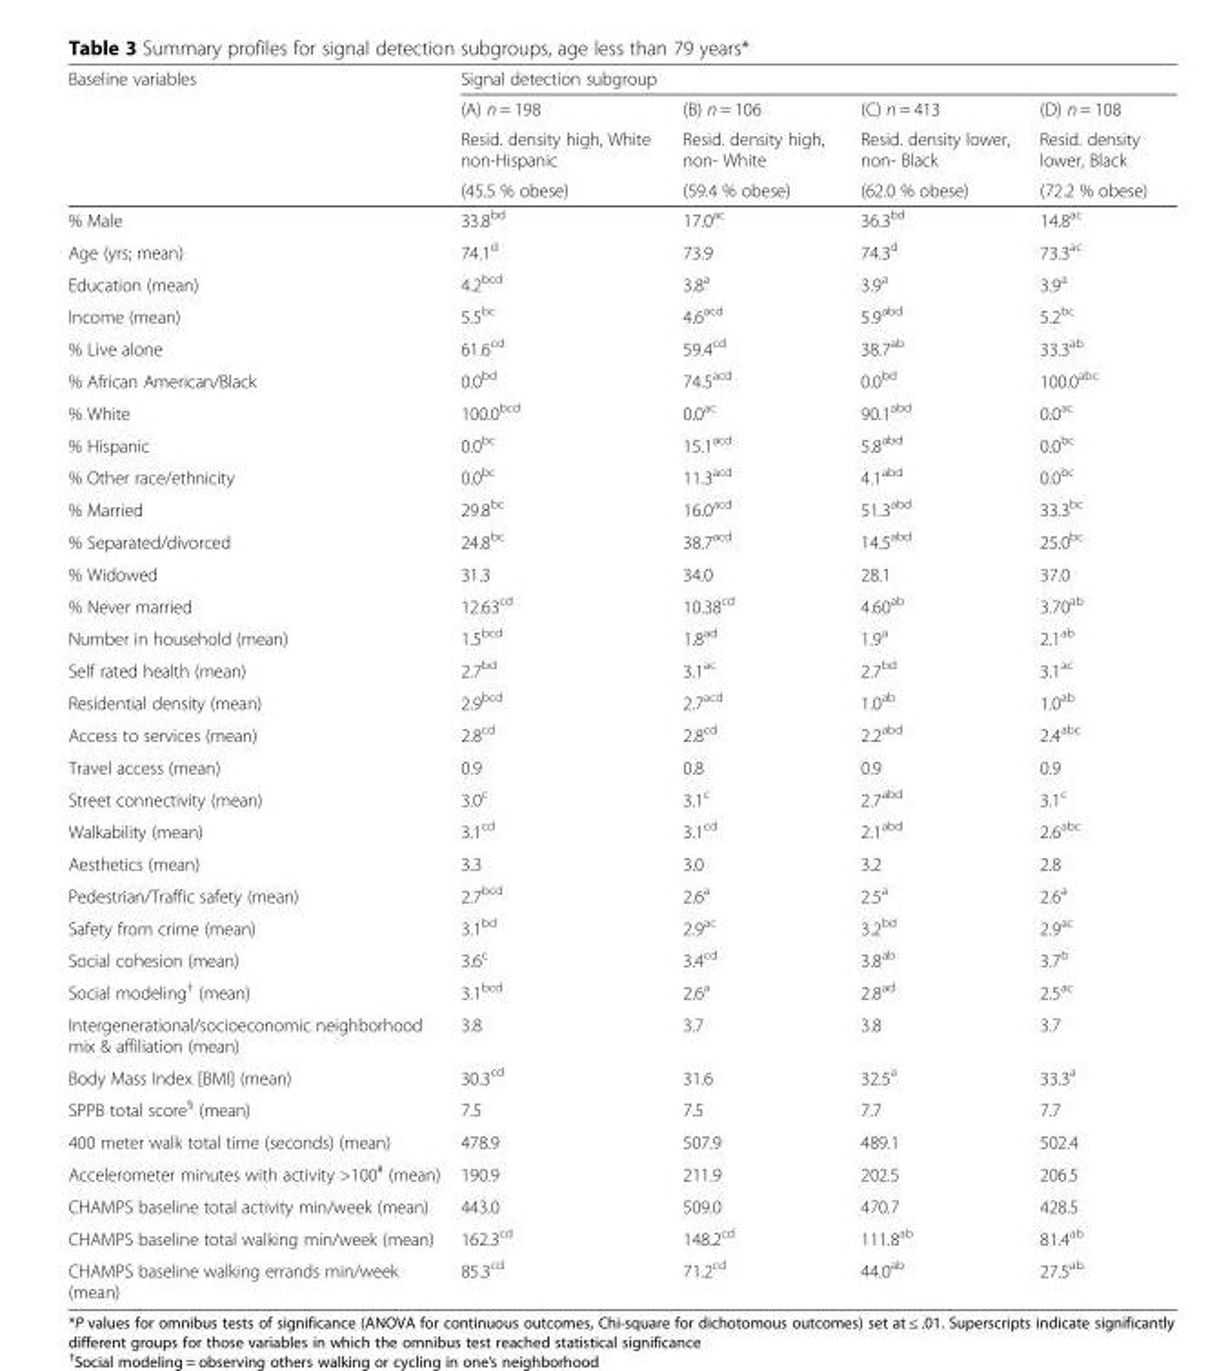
<table><thead><tr><td rowspan="4">Baseline variables</td><td colspan="4">Signal detection subgroup</td></tr><tr><td rowspan="3">(A) n = 198 Resid. density high, White non-Hispanic (45.5 % obese)</td><td rowspan="3">(B) n = 106 Resid. density high, non- White (59.4 % obese)</td><td rowspan="3">(C) n = 413 Resid. density lower, non- Black (62.0 % obese)</td><td rowspan="3">(D) n = 108 Resid. density lower, Black (72.2 % obese)</td></tr><tr></tr><tr></tr></thead><tbody><tr><td>% Male</td><td>33.8<sup>bd</sup></td><td>17.0<sup>ac</sup></td><td>36.3<sup>bd</sup></td><td>14.8<sup>ac</sup></td></tr><tr><td>Age (yrs; mean)</td><td>74.1<sup>d</sup></td><td>73.9</td><td>74.3<sup>d</sup></td><td>73.3<sup>ac</sup></td></tr><tr><td>Education (mean)</td><td>4.2<sup>bcd</sup></td><td>3.8<sup>a</sup></td><td>3.9<sup>a</sup></td><td>3.9<sup>a</sup></td></tr><tr><td>Income (mean)</td><td>5.5<sup>bc</sup></td><td>4.6<sup>acd</sup></td><td>5.9<sup>abd</sup></td><td>5.2<sup>bc</sup></td></tr><tr><td>% Live alone</td><td>61.6<sup>cd</sup></td><td>59.4<sup>cd</sup></td><td>38.7<sup>ab</sup></td><td>33.3<sup>ab</sup></td></tr><tr><td>% African American/Black</td><td>0.0<sup>bd</sup></td><td>74.5<sup>acd</sup></td><td>0.0<sup>bd</sup></td><td>100.0<sup>abc</sup></td></tr><tr><td>% White</td><td>100.0<sup>bcd</sup></td><td>0.0<sup>ac</sup></td><td>90.1<sup>abd</sup></td><td>0.0<sup>ac</sup></td></tr><tr><td>% Hispanic</td><td>0.0<sup>bc</sup></td><td>15.1<sup>acd</sup></td><td>5.8<sup>abd</sup></td><td>0.0<sup>bc</sup></td></tr><tr><td>% Other race/ethnicity</td><td>0.0<sup>bc</sup></td><td>11.3<sup>acd</sup></td><td>4.1<sup>abd</sup></td><td>0.0<sup>bc</sup></td></tr><tr><td>% Married</td><td>29.8<sup>bc</sup></td><td>16.0<sup>acd</sup></td><td>51.3<sup>abd</sup></td><td>33.3<sup>bc</sup></td></tr><tr><td>% Separated/divorced</td><td>24.8<sup>bc</sup></td><td>38.7<sup>acd</sup></td><td>14.5<sup>abd</sup></td><td>25.0<sup>bc</sup></td></tr><tr><td>% Widowed</td><td>31.3</td><td>34.0</td><td>28.1</td><td>37.0</td></tr><tr><td>% Never married</td><td>12.63<sup>cd</sup></td><td>10.38<sup>cd</sup></td><td>4.60<sup>ab</sup></td><td>3.70<sup>ab</sup></td></tr><tr><td>Number in household (mean)</td><td>1.5<sup>bcd</sup></td><td>1.8<sup>ad</sup></td><td>1.9<sup>a</sup></td><td>2.1<sup>ab</sup></td></tr><tr><td>Self rated health (mean)</td><td>2.7<sup>bd</sup></td><td>3.1<sup>ac</sup></td><td>2.7<sup>bd</sup></td><td>3.1<sup>ac</sup></td></tr><tr><td>Residential density (mean)</td><td>2.9<sup>bcd</sup></td><td>2.7<sup>acd</sup></td><td>1.0<sup>ab</sup></td><td>1.0<sup>ab</sup></td></tr><tr><td>Access to services (mean)</td><td>2.8<sup>cd</sup></td><td>2.8<sup>cd</sup></td><td>2.2<sup>abd</sup></td><td>2.4<sup>abc</sup></td></tr><tr><td>Travel access (mean)</td><td>0.9</td><td>0.8</td><td>0.9</td><td>0.9</td></tr><tr><td>Street connectivity (mean)</td><td>3.0<sup>c</sup></td><td>3.1<sup>c</sup></td><td>2.7<sup>abd</sup></td><td>3.1<sup>c</sup></td></tr><tr><td>Walkability (mean)</td><td>3.1<sup>cd</sup></td><td>3.1<sup>cd</sup></td><td>2.1<sup>abd</sup></td><td>2.6<sup>abc</sup></td></tr><tr><td>Aesthetics (mean)</td><td>3.3</td><td>3.0</td><td>3.2</td><td>2.8</td></tr><tr><td>Pedestrian/Traffic safety (mean)</td><td>2.7<sup>bcd</sup></td><td>2.6<sup>a</sup></td><td>2.5<sup>a</sup></td><td>2.6<sup>a</sup></td></tr><tr><td>Safety from crime (mean)</td><td>3.1<sup>bd</sup></td><td>2.9<sup>ac</sup></td><td>3.2<sup>bd</sup></td><td>2.9<sup>ac</sup></td></tr><tr><td>Social cohesion (mean)</td><td>3.6<sup>c</sup></td><td>3.4<sup>cd</sup></td><td>3.8<sup>ab</sup></td><td>3.7<sup>b</sup></td></tr><tr><td>Social modeling<sup>†</sup> (mean)</td><td>3.1<sup>bcd</sup></td><td>2.6<sup>a</sup></td><td>2.8<sup>ad</sup></td><td>2.5<sup>ac</sup></td></tr><tr><td>Intergenerational/socioeconomic neighborhood mix &amp; affiliation (mean)</td><td>3.8</td><td>3.7</td><td>3.8</td><td>3.7</td></tr><tr><td>Body Mass Index [BMI] (mean)</td><td>30.3<sup>cd</sup></td><td>31.6</td><td>32.5<sup>a</sup></td><td>33.3<sup>a</sup></td></tr><tr><td>SPPB total score<sup>§</sup> (mean)</td><td>7.5</td><td>7.5</td><td>7.7</td><td>7.7</td></tr><tr><td>400 meter walk total time (seconds) (mean)</td><td>478.9</td><td>507.9</td><td>489.1</td><td>502.4</td></tr><tr><td>Accelerometer minutes with activity &gt;100<sup>#</sup> (mean)</td><td>190.9</td><td>211.9</td><td>202.5</td><td>206.5</td></tr><tr><td>CHAMPS baseline total activity min/week (mean)</td><td>443.0</td><td>509.0</td><td>470.7</td><td>428.5</td></tr><tr><td>CHAMPS baseline total walking min/week (mean)</td><td>162.3<sup>cd</sup></td><td>148.2<sup>cd</sup></td><td>111.8<sup>ab</sup></td><td>81.4<sup>ab</sup></td></tr><tr><td>CHAMPS baseline walking errands min/week (mean)</td><td>85.3<sup>cd</sup></td><td>71.2<sup>cd</sup></td><td>44.0<sup>ab</sup></td><td>27.5<sup>ab</sup></td></tr></tbody></table>